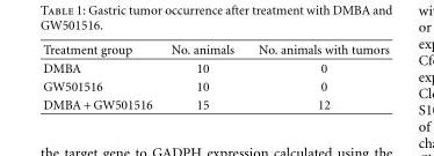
<table><thead><tr><td>Treatment group</td><td>No. animals</td><td>No. animals with tumors</td></tr></thead><tbody><tr><td>DMBA</td><td>10</td><td>0</td></tr><tr><td>GW501516</td><td>10</td><td>0</td></tr><tr><td>DMBA + GW501516</td><td>15</td><td>12</td></tr></tbody></table>